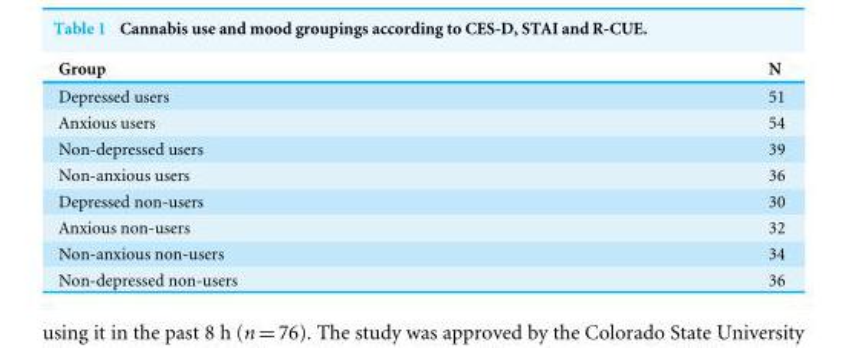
<table><thead><tr><td>Group</td><td>N</td></tr></thead><tbody><tr><td>Depressed users</td><td>51</td></tr><tr><td>Anxious users</td><td>54</td></tr><tr><td>Non-depressed users</td><td>39</td></tr><tr><td>Non-anxious users</td><td>36</td></tr><tr><td>Depressed non-users</td><td>30</td></tr><tr><td>Anxious non-users</td><td>32</td></tr><tr><td>Non-anxious non-users</td><td>34</td></tr><tr><td>Non-depressed non-users</td><td>36</td></tr></tbody></table>